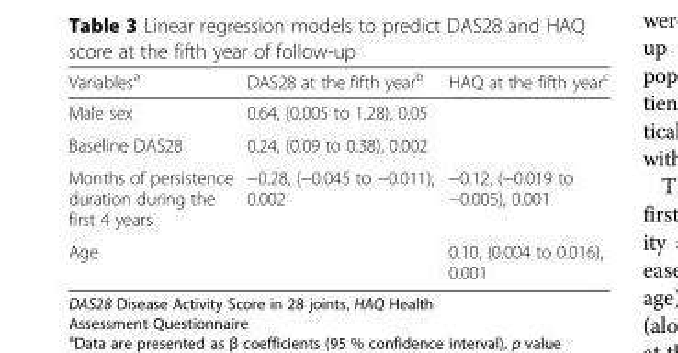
<table><thead><tr><td>Variables<sup>a</sup></td><td>DAS28 at the fifth year<sup>b</sup></td><td>HAQ at the fifth year<sup>c</sup></td></tr></thead><tbody><tr><td>Male sex</td><td>0.64, (0.005 to 1.28), 0.05</td><td></td></tr><tr><td>Baseline DAS28</td><td>0.24, (0.09 to 0.38), 0.002</td><td></td></tr><tr><td>Months of persistence duration during the first 4 years</td><td>−0.28, (−0.045 to −0.011), 0.002</td><td>−0.12, (−0.019 to −0.005), 0.001</td></tr><tr><td>Age</td><td></td><td>0.10, (0.004 to 0.016), 0.001</td></tr></tbody></table>